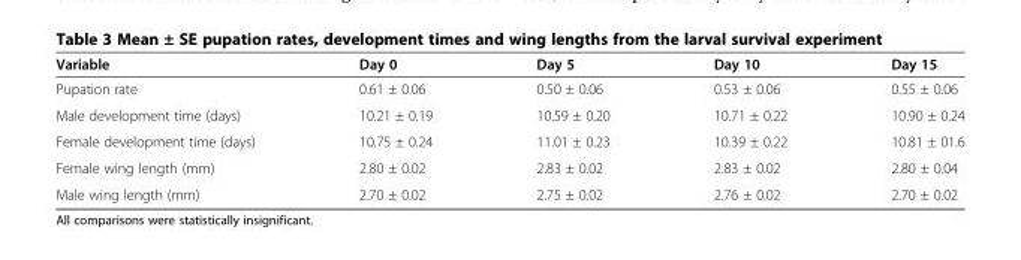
<table><thead><tr><td>Variable</td><td>Day 0</td><td>Day 5</td><td>Day 10</td><td>Day 15</td></tr></thead><tbody><tr><td>Pupation rate</td><td>0.61 ± 0.06</td><td>0.50 ± 0.06</td><td>0.53 ± 0.06</td><td>0.55 ± 0.06</td></tr><tr><td>Male development time (days)</td><td>10.21 ± 0.19</td><td>10.59 ± 0.20</td><td>10.71 ± 0.22</td><td>10.90 ± 0.24</td></tr><tr><td>Female development time (days)</td><td>10.75 ± 0.24</td><td>11.01 ± 0.23</td><td>10.39 ± 0.22</td><td>10.81 ± 01.6</td></tr><tr><td>Female wing length (mm)</td><td>2.80 ± 0.02</td><td>2.83 ± 0.02</td><td>2.83 ± 0.02</td><td>2.80 ± 0.04</td></tr><tr><td>Male wing length (mm)</td><td>2.70 ± 0.02</td><td>2.75 ± 0.02</td><td>2.76 ± 0.02</td><td>2.70 ± 0.02</td></tr></tbody></table>